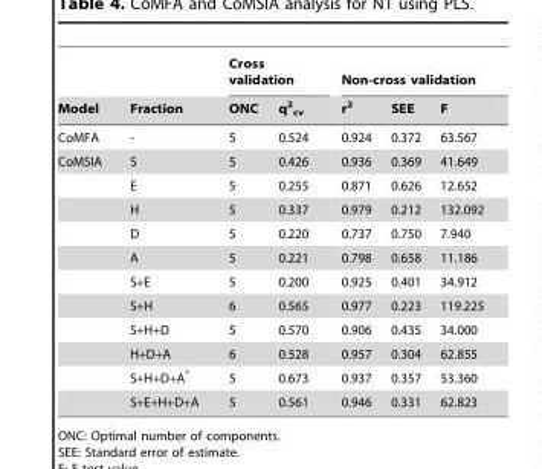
<table><thead><tr><td rowspan="2">Model</td><td rowspan="2">Fraction</td><td colspan="2">Cross validation</td><td colspan="3">Non-cross validation</td></tr><tr><td>ONC</td><td>q2 cv</td><td>r2</td><td>SEE</td><td>F</td></tr></thead><tbody><tr><td>CoMFA</td><td>-</td><td>5</td><td>0.524</td><td>0.924</td><td>0.372</td><td>63.567</td></tr><tr><td rowspan="11">CoMSIA</td><td>S</td><td>5</td><td>0.426</td><td>0.936</td><td>0.369</td><td>41.649</td></tr><tr><td>E</td><td>5</td><td>0.255</td><td>0.871</td><td>0.626</td><td>12.652</td></tr><tr><td>H</td><td>5</td><td>0.337</td><td>0.979</td><td>0.212</td><td>132.092</td></tr><tr><td>D</td><td>5</td><td>0.220</td><td>0.737</td><td>0.750</td><td>7.940</td></tr><tr><td>A</td><td>5</td><td>0.221</td><td>0.798</td><td>0.658</td><td>11.186</td></tr><tr><td>S+E</td><td>5</td><td>0.200</td><td>0.925</td><td>0.401</td><td>34.912</td></tr><tr><td>S+H</td><td>6</td><td>0.565</td><td>0.977</td><td>0.223</td><td>119.225</td></tr><tr><td>S+H+D</td><td>5</td><td>0.570</td><td>0.906</td><td>0.435</td><td>34.000</td></tr><tr><td>H+D+A</td><td>6</td><td>0.528</td><td>0.957</td><td>0.304</td><td>62.855</td></tr><tr><td>S+H+D+A*</td><td>5</td><td>0.673</td><td>0.937</td><td>0.357</td><td>53.360</td></tr><tr><td>S+E+H+D+A</td><td>5</td><td>0.561</td><td>0.946</td><td>0.331</td><td>62.823</td></tr></tbody></table>